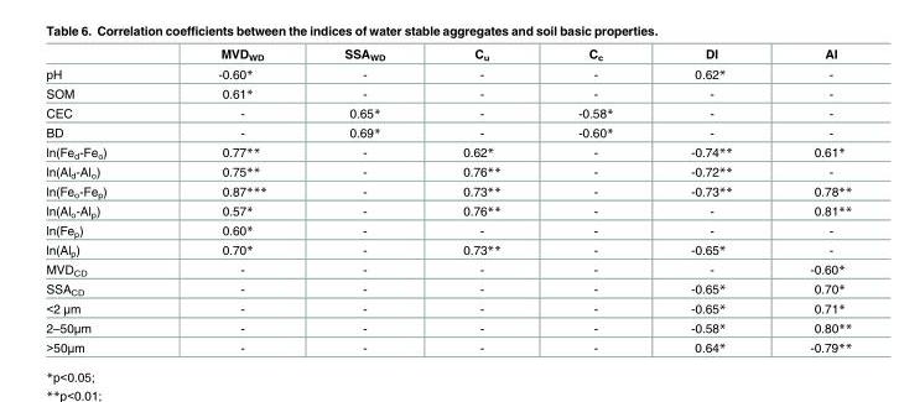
<table><thead><tr><td></td><td>MVD<sub>WD</sub></td><td>SSA<sub>WD</sub></td><td>C<sub>u</sub></td><td>C<sub>c</sub></td><td>DI</td><td>AI</td></tr></thead><tbody><tr><td>pH</td><td>-0.60*</td><td>-</td><td>-</td><td>-</td><td>0.62*</td><td>-</td></tr><tr><td>SOM</td><td>0.61*</td><td>-</td><td>-</td><td>-</td><td>-</td><td>-</td></tr><tr><td>CEC</td><td>-</td><td>0.65*</td><td>-</td><td>-0.58*</td><td>-</td><td>-</td></tr><tr><td>BD</td><td>-</td><td>0.69*</td><td>-</td><td>-0.60*</td><td>-</td><td>-</td></tr><tr><td>ln(Fe<sub>d</sub>-Fe<sub>o</sub>)</td><td>0.77**</td><td>-</td><td>0.62*</td><td>-</td><td>-0.74**</td><td>0.61*</td></tr><tr><td>ln(Al<sub>d</sub>-Al<sub>o</sub>)</td><td>0.75**</td><td>-</td><td>0.76**</td><td>-</td><td>-0.72**</td><td>-</td></tr><tr><td>ln(Fe<sub>o</sub>-Fe<sub>p</sub>)</td><td>0.87***</td><td>-</td><td>0.73**</td><td>-</td><td>-0.73**</td><td>0.78**</td></tr><tr><td>ln(Al<sub>o</sub>-Al<sub>p</sub>)</td><td>0.57*</td><td>-</td><td>0.76**</td><td>-</td><td>-</td><td>0.81**</td></tr><tr><td>ln(Fe<sub>p</sub>)</td><td>0.60*</td><td>-</td><td>-</td><td>-</td><td>-</td><td>-</td></tr><tr><td>ln(Al<sub>p</sub>)</td><td>0.70*</td><td>-</td><td>0.73**</td><td>-</td><td>-0.65*</td><td>-</td></tr><tr><td>MVD<sub>CD</sub></td><td>-</td><td>-</td><td>-</td><td>-</td><td>-</td><td>-0.60*</td></tr><tr><td>SSA<sub>CD</sub></td><td>-</td><td>-</td><td>-</td><td>-</td><td>-0.65*</td><td>0.70*</td></tr><tr><td>&lt;2 μm</td><td>-</td><td>-</td><td>-</td><td>-</td><td>-0.65*</td><td>0.71*</td></tr><tr><td>2–50μm</td><td>-</td><td>-</td><td>-</td><td>-</td><td>-0.58*</td><td>0.80**</td></tr><tr><td>&gt;50μm</td><td>-</td><td>-</td><td>-</td><td>-</td><td>0.64*</td><td>-0.79**</td></tr></tbody></table>